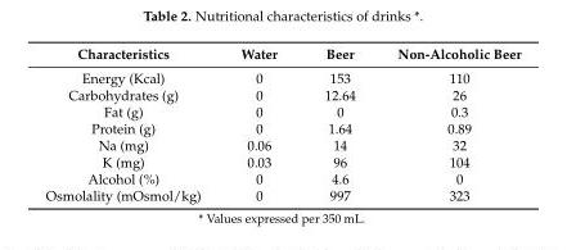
<table><thead><tr><td>Characteristics</td><td>Water</td><td>Beer</td><td>Non-Alcoholic Beer</td></tr></thead><tbody><tr><td>Energy (Kcal)</td><td>0</td><td>153</td><td>110</td></tr><tr><td>Carbohydrates (g)</td><td>0</td><td>12.64</td><td>26</td></tr><tr><td>Fat (g)</td><td>0</td><td>0</td><td>0.3</td></tr><tr><td>Protein (g)</td><td>0</td><td>1.64</td><td>0.89</td></tr><tr><td>Na (mg)</td><td>0.06</td><td>14</td><td>32</td></tr><tr><td>K (mg)</td><td>0.03</td><td>96</td><td>104</td></tr><tr><td>Alcohol (%)</td><td>0</td><td>4.6</td><td>0</td></tr><tr><td>Osmolality (mOsmol/kg)</td><td>0</td><td>997</td><td>323</td></tr></tbody></table>